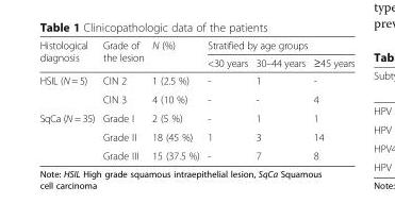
<table><thead><tr><td rowspan="2">Histological diagnosis</td><td rowspan="2">Grade of the lesion</td><td rowspan="2">N (%)</td><td colspan="3">Stratified by age groups</td></tr><tr><td>&lt;30 years</td><td>30–44 years</td><td>≥45 years</td></tr></thead><tbody><tr><td rowspan="2">HSIL (N = 5)</td><td>CIN 2</td><td>1 (2.5 %)</td><td>-</td><td>1</td><td>-</td></tr><tr><td>CIN 3</td><td>4 (10 %)</td><td>-</td><td>-</td><td>4</td></tr><tr><td rowspan="3">SqCa (N = 35)</td><td>Grade I</td><td>2 (5 %)</td><td>-</td><td>1</td><td>1</td></tr><tr><td>Grade II</td><td>18 (45 %)</td><td>1</td><td>3</td><td>14</td></tr><tr><td>Grade III</td><td>15 (37.5 %)</td><td>-</td><td>7</td><td>8</td></tr></tbody></table>